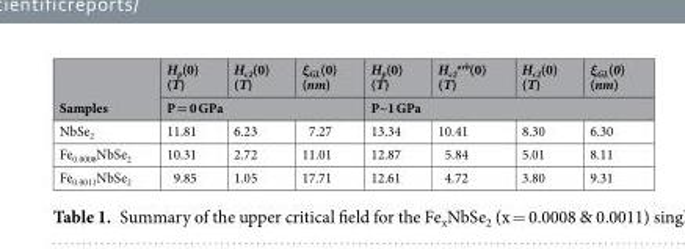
<table><thead><tr><td rowspan="2">Samples</td><td>H<sub>p</sub>(0) (T)</td><td>H<sub>c2</sub>(0) (T)</td><td>ξ<sub>GL</sub>(0) (nm)</td><td>H<sub>p</sub>(0) (T)</td><td>H<sub>c2</sub> <sup>orb</sup>(0) (T)</td><td>H<sub>c2</sub>(0) (T)</td><td>ξ<sub>GL</sub>(0) (nm)</td></tr><tr><td colspan="3">P = 0 GPa</td><td colspan="4">P~1 GPa</td></tr></thead><tbody><tr><td>NbSe<sub>2</sub></td><td>11.81</td><td>6.23</td><td>7.27</td><td>13.34</td><td>10.41</td><td>8.30</td><td>6.30</td></tr><tr><td>Fe<sub>0.0008</sub>NbSe<sub>2</sub></td><td>10.31</td><td>2.72</td><td>11.01</td><td>12.87</td><td>5.84</td><td>5.01</td><td>8.11</td></tr><tr><td>Fe<sub>0.0011</sub>NbSe<sub>2</sub></td><td>9.85</td><td>1.05</td><td>17.71</td><td>12.61</td><td>4.72</td><td>3.80</td><td>9.31</td></tr></tbody></table>